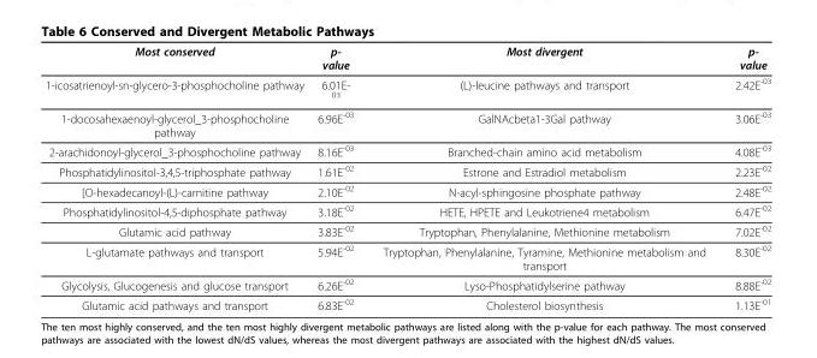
<table><thead><tr><td>Most conserved</td><td>p- value</td><td>Most divergent</td><td>p- value</td></tr></thead><tbody><tr><td>1-icosatrienoyl-sn-glycero-3-phosphocholine pathway</td><td>6.01E- <sup>03</sup></td><td>(L)-leucine pathways and transport</td><td>2.42E<sup>-03</sup></td></tr><tr><td>1-docosahexaenoyl-glycerol_3-phosphocholine pathway</td><td>6.96E<sup>-03</sup></td><td>GalNAcbeta1-3Gal pathway</td><td>3.06E<sup>-03</sup></td></tr><tr><td>2-arachidonoyl-glycerol_3-phosphocholine pathway</td><td>8.16E<sup>-03</sup></td><td>Branched-chain amino acid metabolism</td><td>4.08E<sup>-03</sup></td></tr><tr><td>Phosphatidylinositol-3,4,5-triphosphate pathway</td><td>1.61E<sup>-02</sup></td><td>Estrone and Estradiol metabolism</td><td>2.23E<sup>-02</sup></td></tr><tr><td>[O-hexadecanoyl-(L)-carnitine pathway</td><td>2.10E<sup>-02</sup></td><td>N-acyl-sphingosine phosphate pathway</td><td>2.48E<sup>-02</sup></td></tr><tr><td>Phosphatidylinositol-4,5-diphosphate pathway</td><td>3.18E<sup>-02</sup></td><td>HETE, HPETE and Leukotriene4 metabolism</td><td>6.47E<sup>-02</sup></td></tr><tr><td>Glutamic acid pathway</td><td>3.83E<sup>-02</sup></td><td>Tryptophan, Phenylalanine, Methionine metabolism</td><td>7.02E<sup>-02</sup></td></tr><tr><td>L-glutamate pathways and transport</td><td>5.94E<sup>-02</sup></td><td>Tryptophan, Phenylalanine, Tyramine, Methionine metabolism and transport</td><td>8.30E<sup>-02</sup></td></tr><tr><td>Glycolysis, Glucogenesis and glucose transport</td><td>6.26E<sup>-02</sup></td><td>Lyso-Phosphatidylserine pathway</td><td>8.88E<sup>-02</sup></td></tr><tr><td>Glutamic acid pathways and transport</td><td>6.83E<sup>-02</sup></td><td>Cholesterol biosynthesis</td><td>1.13E<sup>-01</sup></td></tr></tbody></table>